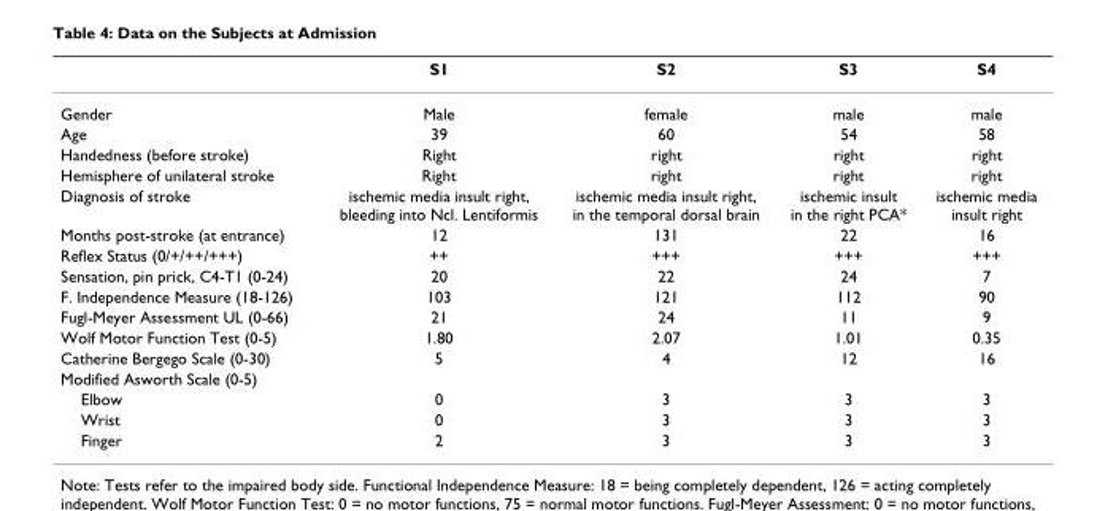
<table><thead><tr><td></td><td>S1</td><td>S2</td><td>S3</td><td>S4</td></tr></thead><tbody><tr><td>Gender</td><td>Male</td><td>female</td><td>male</td><td>male</td></tr><tr><td>Age</td><td>39</td><td>60</td><td>54</td><td>58</td></tr><tr><td>Handedness (before stroke)</td><td>Right</td><td>right</td><td>right</td><td>right</td></tr><tr><td>Hemisphere of unilateral stroke</td><td>Right</td><td>right</td><td>right</td><td>right</td></tr><tr><td>Diagnosis of stroke</td><td>ischemic media insult right, bleeding into Ncl. Lentiformis</td><td>ischemic media insult right, in the temporal dorsal brain</td><td>ischemic insult in the right PCA*</td><td>ischemic media insult right</td></tr><tr><td>Months post-stroke (at entrance)</td><td>12</td><td>131</td><td>22</td><td>16</td></tr><tr><td>Reflex Status (0/+/++/+++)</td><td>++</td><td>+++</td><td>+++</td><td>+++</td></tr><tr><td>Sensation, pin prick, C4-T1 (0-24)</td><td>20</td><td>22</td><td>24</td><td>7</td></tr><tr><td>F. Independence Measure (18-126)</td><td>103</td><td>121</td><td>112</td><td>90</td></tr><tr><td>Fugl-Meyer Assessment UL (0-66)</td><td>21</td><td>24</td><td>11</td><td>9</td></tr><tr><td>Wolf Motor Function Test (0-5)</td><td>1.80</td><td>2.07</td><td>1.01</td><td>0.35</td></tr><tr><td>Catherine Bergego Scale (0-30)</td><td>5</td><td>4</td><td>12</td><td>16</td></tr><tr><td colspan="5">Modified Asworth Scale (0-5)</td></tr><tr><td>Elbow</td><td>0</td><td>3</td><td>3</td><td>3</td></tr><tr><td>Wrist</td><td>0</td><td>3</td><td>3</td><td>3</td></tr><tr><td>Finger</td><td>2</td><td>3</td><td>3</td><td>3</td></tr></tbody></table>